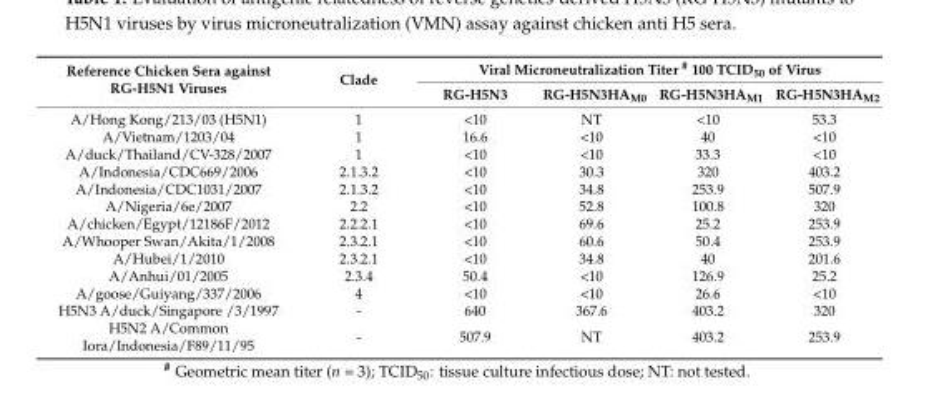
<table><thead><tr><td rowspan="2">Reference Chicken Sera against RG-H5N1 Viruses</td><td rowspan="2">Clade</td><td colspan="4">Viral Microneutralization Titer <sup>#</sup> 100 TCID<sub>50</sub> of Virus</td></tr><tr><td>RG-H5N3</td><td>RG-H5N3HA<sub>M0</sub></td><td>RG-H5N3HA<sub>M1</sub></td><td>RG-H5N3HA<sub>M2</sub></td></tr></thead><tbody><tr><td>A/Hong Kong/213/03 (H5N1)</td><td>1</td><td>&lt;10</td><td>NT</td><td>&lt;10</td><td>53.3</td></tr><tr><td>A/Vietnam/1203/04</td><td>1</td><td>16.6</td><td>&lt;10</td><td>40</td><td>&lt;10</td></tr><tr><td>A/duck/Thailand/CV-328/2007</td><td>1</td><td>&lt;10</td><td>&lt;10</td><td>33.3</td><td>&lt;10</td></tr><tr><td>A/Indonesia/CDC669/2006</td><td>2.1.3.2</td><td>&lt;10</td><td>30.3</td><td>320</td><td>403.2</td></tr><tr><td>A/Indonesia/CDC1031/2007</td><td>2.1.3.2</td><td>&lt;10</td><td>34.8</td><td>253.9</td><td>507.9</td></tr><tr><td>A/Nigeria/6e/2007</td><td>2.2</td><td>&lt;10</td><td>52.8</td><td>100.8</td><td>320</td></tr><tr><td>A/chicken/Egypt/12186F/2012</td><td>2.2.2.1</td><td>&lt;10</td><td>69.6</td><td>25.2</td><td>253.9</td></tr><tr><td>A/Whooper Swan/Akita/1/2008</td><td>2.3.2.1</td><td>&lt;10</td><td>60.6</td><td>50.4</td><td>253.9</td></tr><tr><td>A/Hubei/1/2010</td><td>2.3.2.1</td><td>&lt;10</td><td>34.8</td><td>40</td><td>201.6</td></tr><tr><td>A/Anhui/01/2005</td><td>2.3.4</td><td>50.4</td><td>&lt;10</td><td>126.9</td><td>25.2</td></tr><tr><td>A/goose/Guiyang/337/2006</td><td>4</td><td>&lt;10</td><td>&lt;10</td><td>26.6</td><td>&lt;10</td></tr><tr><td>H5N3 A/duck/Singapore /3/1997</td><td>-</td><td>640</td><td>367.6</td><td>403.2</td><td>320</td></tr><tr><td>H5N2 A/Common Iora/Indonesia/F89/11/95</td><td>-</td><td>507.9</td><td>NT</td><td>403.2</td><td>253.9</td></tr></tbody></table>